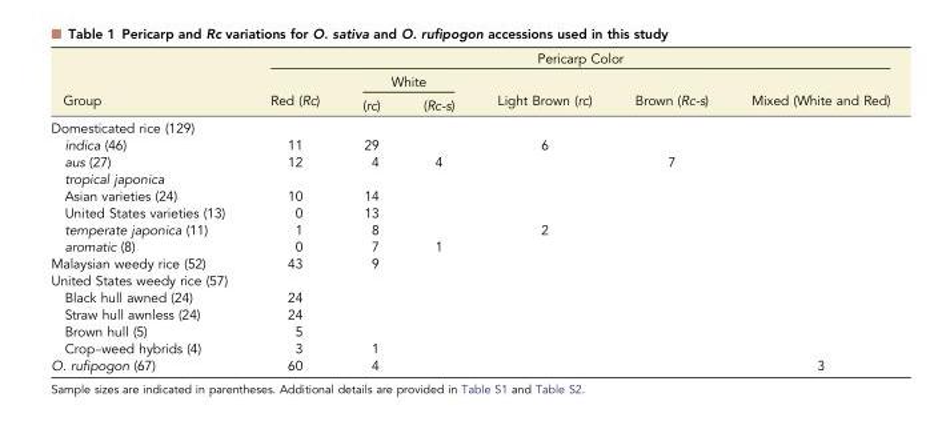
<table><thead><tr><td rowspan="3">Group</td><td colspan="6">Pericarp Color</td></tr><tr><td rowspan="2">Red (Rc)</td><td colspan="2">White</td><td rowspan="2">Light Brown (rc)</td><td rowspan="2">Brown (Rc-s)</td><td rowspan="2">Mixed (White and Red)</td></tr><tr><td>(rc)</td><td>(Rc-s)</td></tr></thead><tbody><tr><td colspan="7">Domesticated rice (129)</td></tr><tr><td>indica (46)</td><td>11</td><td>29</td><td></td><td>6</td><td></td><td></td></tr><tr><td>aus (27)</td><td>12</td><td>4</td><td>4</td><td></td><td>7</td><td></td></tr><tr><td colspan="7">tropical japonica</td></tr><tr><td>Asian varieties (24)</td><td>10</td><td>14</td><td></td><td></td><td></td><td></td></tr><tr><td>United States varieties (13)</td><td>0</td><td>13</td><td></td><td></td><td></td><td></td></tr><tr><td>temperate japonica (11)</td><td>1</td><td>8</td><td></td><td>2</td><td></td><td></td></tr><tr><td>aromatic (8)</td><td>0</td><td>7</td><td>1</td><td></td><td></td><td></td></tr><tr><td>Malaysian weedy rice (52)</td><td>43</td><td>9</td><td></td><td></td><td></td><td></td></tr><tr><td colspan="7">United States weedy rice (57)</td></tr><tr><td>Black hull awned (24)</td><td>24</td><td></td><td></td><td></td><td></td><td></td></tr><tr><td>Straw hull awnless (24)</td><td>24</td><td></td><td></td><td></td><td></td><td></td></tr><tr><td>Brown hull (5)</td><td>5</td><td></td><td></td><td></td><td></td><td></td></tr><tr><td>Crop–weed hybrids (4)</td><td>3</td><td>1</td><td></td><td></td><td></td><td></td></tr><tr><td>O. rufipogon (67)</td><td>60</td><td>4</td><td></td><td></td><td></td><td>3</td></tr></tbody></table>